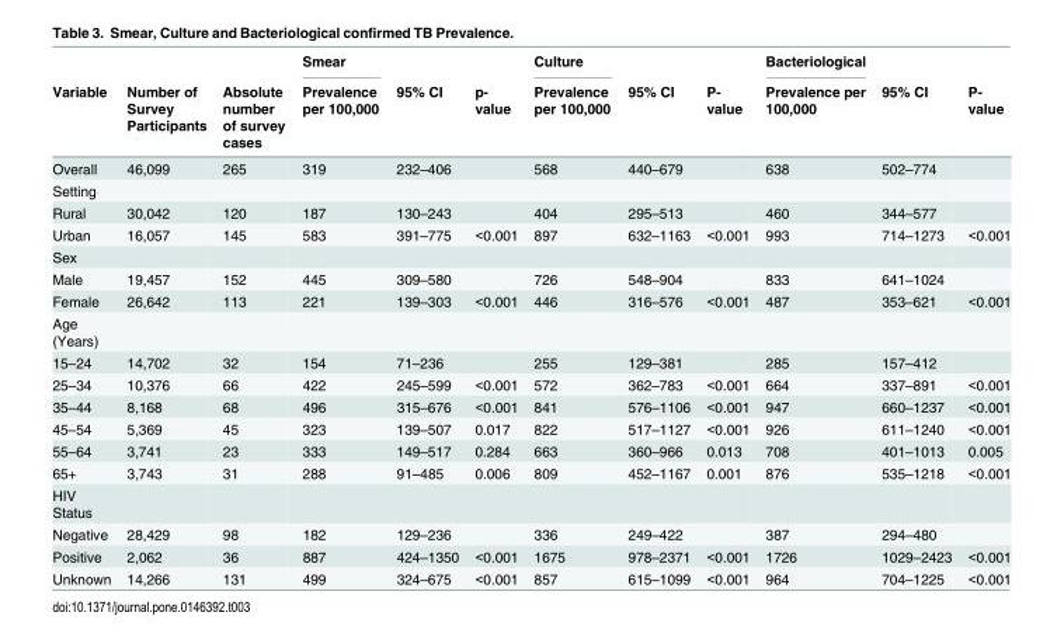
<table><thead><tr><td rowspan="2">Variable</td><td rowspan="2">Number of Survey Participants</td><td rowspan="2">Absolute number of survey cases</td><td rowspan="2">Smear Prevalence per 100,000</td><td rowspan="2">95% CI</td><td rowspan="2">p- value</td><td rowspan="2">Culture Prevalence per 100,000</td><td rowspan="2">95% CI</td><td rowspan="2">P- value</td><td rowspan="2">Bacteriological Prevalence per 100,000</td><td rowspan="2">95% CI</td><td rowspan="2">P- value</td></tr><tr></tr></thead><tbody><tr><td>Overall</td><td>46,099</td><td>265</td><td>319</td><td>232–406</td><td></td><td>568</td><td>440–679</td><td></td><td>638</td><td>502–774</td><td></td></tr><tr><td colspan="12">Setting</td></tr><tr><td>Rural</td><td>30,042</td><td>120</td><td>187</td><td>130–243</td><td></td><td>404</td><td>295–513</td><td></td><td>460</td><td>344–577</td><td></td></tr><tr><td>Urban</td><td>16,057</td><td>145</td><td>583</td><td>391–775</td><td>&lt;0.001</td><td>897</td><td>632–1163</td><td>&lt;0.001</td><td>993</td><td>714–1273</td><td>&lt;0.001</td></tr><tr><td colspan="12">Sex</td></tr><tr><td>Male</td><td>19,457</td><td>152</td><td>445</td><td>309–580</td><td></td><td>726</td><td>548–904</td><td></td><td>833</td><td>641–1024</td><td></td></tr><tr><td>Female</td><td>26,642</td><td>113</td><td>221</td><td>139–303</td><td>&lt;0.001</td><td>446</td><td>316–576</td><td>&lt;0.001</td><td>487</td><td>353–621</td><td>&lt;0.001</td></tr><tr><td colspan="12">Age (Years)</td></tr><tr><td>15–24</td><td>14,702</td><td>32</td><td>154</td><td>71–236</td><td></td><td>255</td><td>129–381</td><td></td><td>285</td><td>157–412</td><td></td></tr><tr><td>25–34</td><td>10,376</td><td>66</td><td>422</td><td>245–599</td><td>&lt;0.001</td><td>572</td><td>362–783</td><td>&lt;0.001</td><td>664</td><td>337–891</td><td>&lt;0.001</td></tr><tr><td>35–44</td><td>8,168</td><td>68</td><td>496</td><td>315–676</td><td>&lt;0.001</td><td>841</td><td>576–1106</td><td>&lt;0.001</td><td>947</td><td>660–1237</td><td>&lt;0.001</td></tr><tr><td>45–54</td><td>5,369</td><td>45</td><td>323</td><td>139–507</td><td>0.017</td><td>822</td><td>517–1127</td><td>&lt;0.001</td><td>926</td><td>611–1240</td><td>&lt;0.001</td></tr><tr><td>55–64</td><td>3,741</td><td>23</td><td>333</td><td>149–517</td><td>0.284</td><td>663</td><td>360–966</td><td>0.013</td><td>708</td><td>401–1013</td><td>0.005</td></tr><tr><td>65+</td><td>3,743</td><td>31</td><td>288</td><td>91–485</td><td>0.006</td><td>809</td><td>452–1167</td><td>0.001</td><td>876</td><td>535–1218</td><td>&lt;0.001</td></tr><tr><td colspan="12">HIV Status</td></tr><tr><td>Negative</td><td>28,429</td><td>98</td><td>182</td><td>129–236</td><td></td><td>336</td><td>249–422</td><td></td><td>387</td><td>294–480</td><td></td></tr><tr><td>Positive</td><td>2,062</td><td>36</td><td>887</td><td>424–1350</td><td>&lt;0.001</td><td>1675</td><td>978–2371</td><td>&lt;0.001</td><td>1726</td><td>1029–2423</td><td>&lt;0.001</td></tr><tr><td>Unknown</td><td>14,266</td><td>131</td><td>499</td><td>324–675</td><td>&lt;0.001</td><td>857</td><td>615–1099</td><td>&lt;0.001</td><td>964</td><td>704–1225</td><td>&lt;0.001</td></tr></tbody></table>